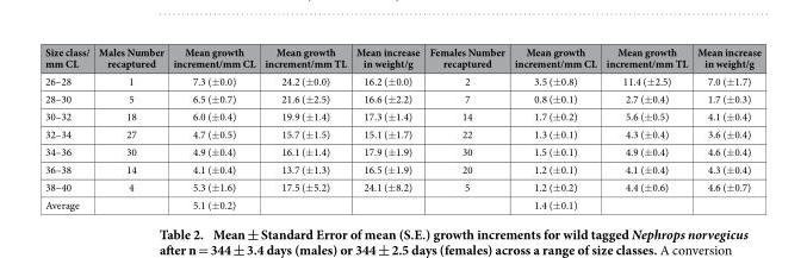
<table><thead><tr><td>Size class/ mm CL</td><td>Males Number recaptured</td><td>Mean growth increment/mm CL</td><td>Mean growth increment/mm TL</td><td>Mean increase in weight/g</td><td>Females Number recaptured</td><td>Mean growth increment/mm CL</td><td>Mean growth increment/mm TL</td><td>Mean increase in weight/g</td></tr></thead><tbody><tr><td>26–28</td><td>1</td><td>7.3 (± 0.0)</td><td>24.2 (± 0.0)</td><td>16.2 (± 0.0)</td><td>2</td><td>3.5 (± 0.8)</td><td>11.4 (± 2.5)</td><td>7.0 (± 1.7)</td></tr><tr><td>28–30</td><td>5</td><td>6.5 (± 0.7)</td><td>21.6 (± 2.5)</td><td>16.6 (± 2.2)</td><td>7</td><td>0.8 (± 0.1)</td><td>2.7 (± 0.4)</td><td>1.7 (± 0.3)</td></tr><tr><td>30–32</td><td>18</td><td>6.0 (± 0.4)</td><td>19.9 (± 1.4)</td><td>17.3 (± 1.4)</td><td>14</td><td>1.7 (± 0.2)</td><td>5.6 (± 0.5)</td><td>4.1 (± 0.4)</td></tr><tr><td>32–34</td><td>27</td><td>4.7 (± 0.5)</td><td>15.7 (± 1.5)</td><td>15.1 (± 1.7)</td><td>22</td><td>1.3 (± 0.1)</td><td>4.3 (± 0.4)</td><td>3.6 (± 0.4)</td></tr><tr><td>34–36</td><td>30</td><td>4.9 (± 0.4)</td><td>16.1 (± 1.4)</td><td>17.9 (± 1.9)</td><td>30</td><td>1.5 (± 0.1)</td><td>4.9 (± 0.4)</td><td>4.6 (± 0.4)</td></tr><tr><td>36–38</td><td>14</td><td>4.1 (± 0.4)</td><td>13.7 (± 1.3)</td><td>16.5 (± 1.9)</td><td>20</td><td>1.2 (± 0.1)</td><td>4.1 (± 0.4)</td><td>4.3 (± 0.4)</td></tr><tr><td>38–40</td><td>4</td><td>5.3 (± 1.6)</td><td>17.5 (± 5.2)</td><td>24.1 (± 8.2)</td><td>5</td><td>1.2 (± 0.2)</td><td>4.4 (± 0.6)</td><td>4.6 (± 0.7)</td></tr><tr><td>Average</td><td></td><td>5.1 (± 0.2)</td><td></td><td></td><td></td><td>1.4 (± 0.1)</td><td></td><td></td></tr></tbody></table>